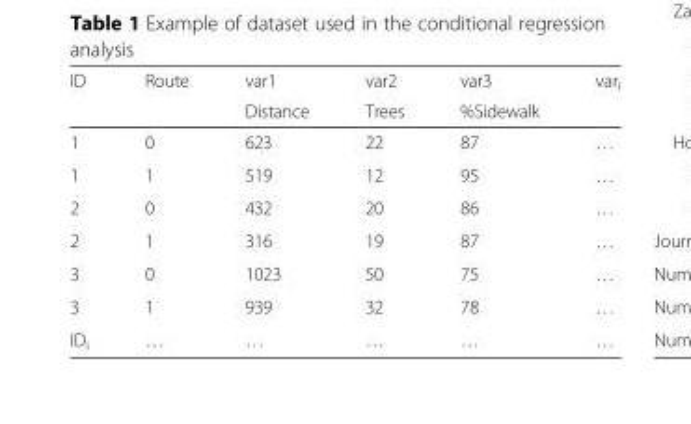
<table><thead><tr><td rowspan="2">ID</td><td rowspan="2">Route</td><td rowspan="2">var1 Distance</td><td rowspan="2">var2 Trees</td><td rowspan="2">var3 %Sidewalk</td><td rowspan="2">var<sub>i</sub></td></tr><tr></tr></thead><tbody><tr><td>1</td><td>0</td><td>623</td><td>22</td><td>87</td><td>…</td></tr><tr><td>1</td><td>1</td><td>519</td><td>12</td><td>95</td><td>…</td></tr><tr><td>2</td><td>0</td><td>432</td><td>20</td><td>86</td><td>…</td></tr><tr><td>2</td><td>1</td><td>316</td><td>19</td><td>87</td><td>…</td></tr><tr><td>3</td><td>0</td><td>1023</td><td>50</td><td>75</td><td>…</td></tr><tr><td>3</td><td>1</td><td>939</td><td>32</td><td>78</td><td>…</td></tr><tr><td>ID<sub>i</sub></td><td>…</td><td>…</td><td>…</td><td>…</td><td>…</td></tr></tbody></table>